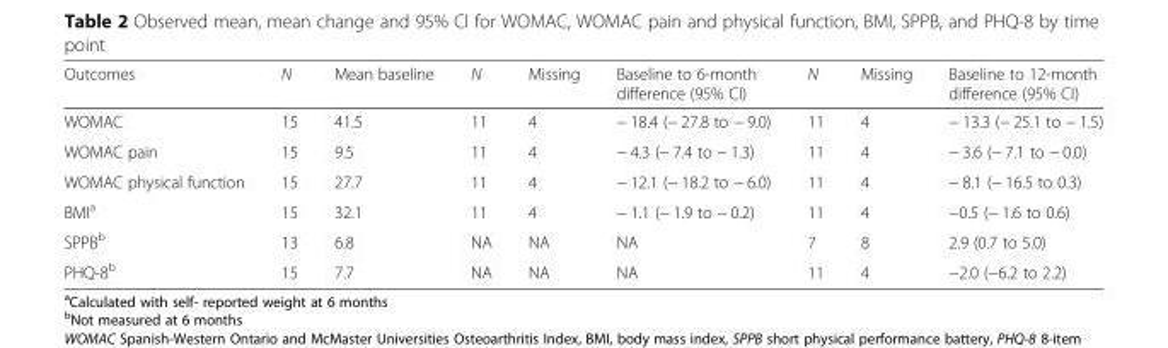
<table><thead><tr><td>Outcomes</td><td>N</td><td>Mean baseline</td><td>N</td><td>Missing</td><td>Baseline to 6-month difference (95% CI)</td><td>N</td><td>Missing</td><td>Baseline to 12-month difference (95% CI)</td></tr></thead><tbody><tr><td>WOMAC</td><td>15</td><td>41.5</td><td>11</td><td>4</td><td>− 18.4 (− 27.8 to − 9.0)</td><td>11</td><td>4</td><td>− 13.3 (− 25.1 to − 1.5)</td></tr><tr><td>WOMAC pain</td><td>15</td><td>9.5</td><td>11</td><td>4</td><td>− 4.3 (− 7.4 to − 1.3)</td><td>11</td><td>4</td><td>− 3.6 (− 7.1 to − 0.0)</td></tr><tr><td>WOMAC physical function</td><td>15</td><td>27.7</td><td>11</td><td>4</td><td>− 12.1 (− 18.2 to − 6.0)</td><td>11</td><td>4</td><td>− 8.1 (− 16.5 to 0.3)</td></tr><tr><td>BMI<sup>a</sup></td><td>15</td><td>32.1</td><td>11</td><td>4</td><td>− 1.1 (− 1.9 to − 0.2)</td><td>11</td><td>4</td><td>−0.5 (− 1.6 to 0.6)</td></tr><tr><td>SPPB<sup>b</sup></td><td>13</td><td>6.8</td><td>NA</td><td>NA</td><td>NA</td><td>7</td><td>8</td><td>2.9 (0.7 to 5.0)</td></tr><tr><td>PHQ-8<sup>b</sup></td><td>15</td><td>7.7</td><td>NA</td><td>NA</td><td>NA</td><td>11</td><td>4</td><td>−2.0 (−6.2 to 2.2)</td></tr></tbody></table>